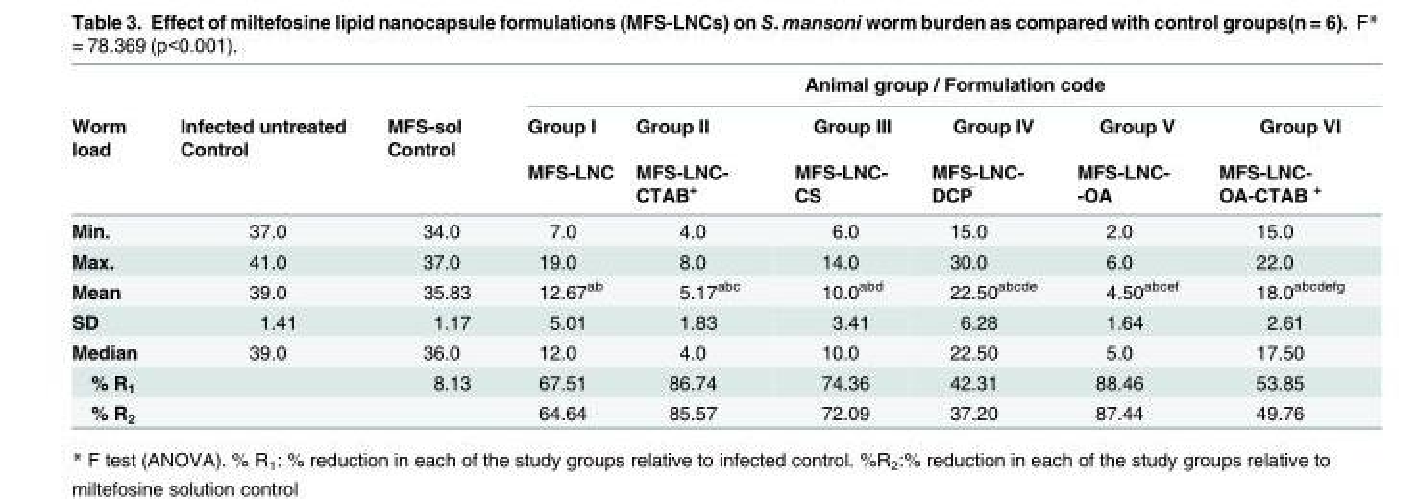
<table><thead><tr><td rowspan="3">Worm load</td><td rowspan="3">Infected untreated Control</td><td rowspan="3">MFS-sol Control</td><td colspan="6">Animal group / Formulation code</td></tr><tr><td rowspan="2">Group I MFS-LNC</td><td rowspan="2">Group II MFS-LNC- CTAB<sup>+</sup></td><td rowspan="2">Group III MFS-LNC- CS</td><td rowspan="2">Group IV MFS-LNC- DCP<sup>¯</sup></td><td rowspan="2">Group V MFS-LNC- -OA</td><td rowspan="2">Group VI MFS-LNC- OA-CTAB <sup>+</sup></td></tr><tr></tr></thead><tbody><tr><td>Min.</td><td>37.0</td><td>34.0</td><td>7.0</td><td>4.0</td><td>6.0</td><td>15.0</td><td>2.0</td><td>15.0</td></tr><tr><td>Max.</td><td>41.0</td><td>37.0</td><td>19.0</td><td>8.0</td><td>14.0</td><td>30.0</td><td>6.0</td><td>22.0</td></tr><tr><td>Mean</td><td>39.0</td><td>35.83</td><td>12.67<sup>ab</sup></td><td>5.17<sup>abc</sup></td><td>10.0<sup>abd</sup></td><td>22.50<sup>abcde</sup></td><td>4.50<sup>abcef</sup></td><td>18.0<sup>abcdefg</sup></td></tr><tr><td>SD</td><td>1.41</td><td>1.17</td><td>5.01</td><td>1.83</td><td>3.41</td><td>6.28</td><td>1.64</td><td>2.61</td></tr><tr><td>Median</td><td>39.0</td><td>36.0</td><td>12.0</td><td>4.0</td><td>10.0</td><td>22.50</td><td>5.0</td><td>17.50</td></tr><tr><td>% R<sub>1</sub></td><td></td><td>8.13</td><td>67.51</td><td>86.74</td><td>74.36</td><td>42.31</td><td>88.46</td><td>53.85</td></tr><tr><td>% R<sub>2</sub></td><td></td><td></td><td>64.64</td><td>85.57</td><td>72.09</td><td>37.20</td><td>87.44</td><td>49.76</td></tr></tbody></table>